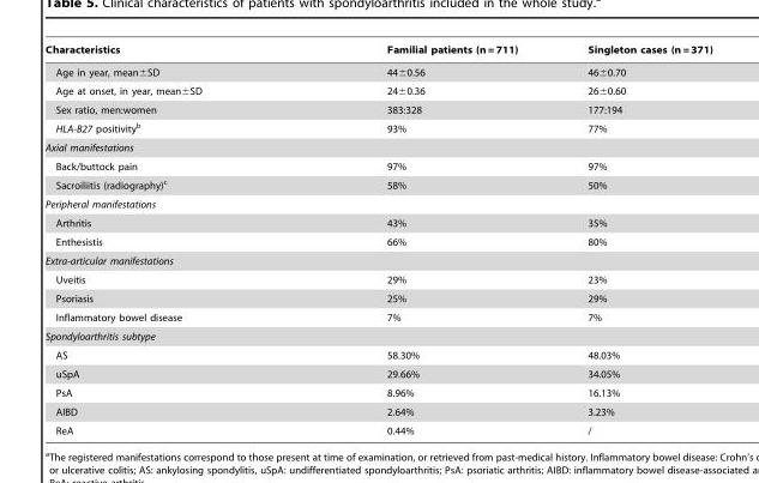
<table><thead><tr><td>Characteristics</td><td>Familial patients (n = 711)</td><td>Singleton cases (n = 371)</td></tr></thead><tbody><tr><td>Age in year, mean±SD</td><td>44±0.56</td><td>46±0.70</td></tr><tr><td>Age at onset, in year, mean±SD</td><td>24±0.36</td><td>26±0.60</td></tr><tr><td>Sex ratio, men:women</td><td>383:328</td><td>177:194</td></tr><tr><td>HLA-B27 positivity<sup>b</sup></td><td>93%</td><td>77%</td></tr><tr><td colspan="3">Axial manifestations</td></tr><tr><td>Back/buttock pain</td><td>97%</td><td>97%</td></tr><tr><td>Sacroiliitis (radiography)<sup>c</sup></td><td>58%</td><td>50%</td></tr><tr><td colspan="3">Peripheral manifestations</td></tr><tr><td>Arthritis</td><td>43%</td><td>35%</td></tr><tr><td>Enthesistis</td><td>66%</td><td>80%</td></tr><tr><td colspan="3">Extra-articular manifestations</td></tr><tr><td>Uveitis</td><td>29%</td><td>23%</td></tr><tr><td>Psoriasis</td><td>25%</td><td>29%</td></tr><tr><td>Inflammatory bowel disease</td><td>7%</td><td>7%</td></tr><tr><td colspan="3">Spondyloarthritis subtype</td></tr><tr><td>AS</td><td>58.30%</td><td>48.03%</td></tr><tr><td>uSpA</td><td>29.66%</td><td>34.05%</td></tr><tr><td>PsA</td><td>8.96%</td><td>16.13%</td></tr><tr><td>AIBD</td><td>2.64%</td><td>3.23%</td></tr><tr><td>ReA</td><td>0.44%</td><td>/</td></tr></tbody></table>